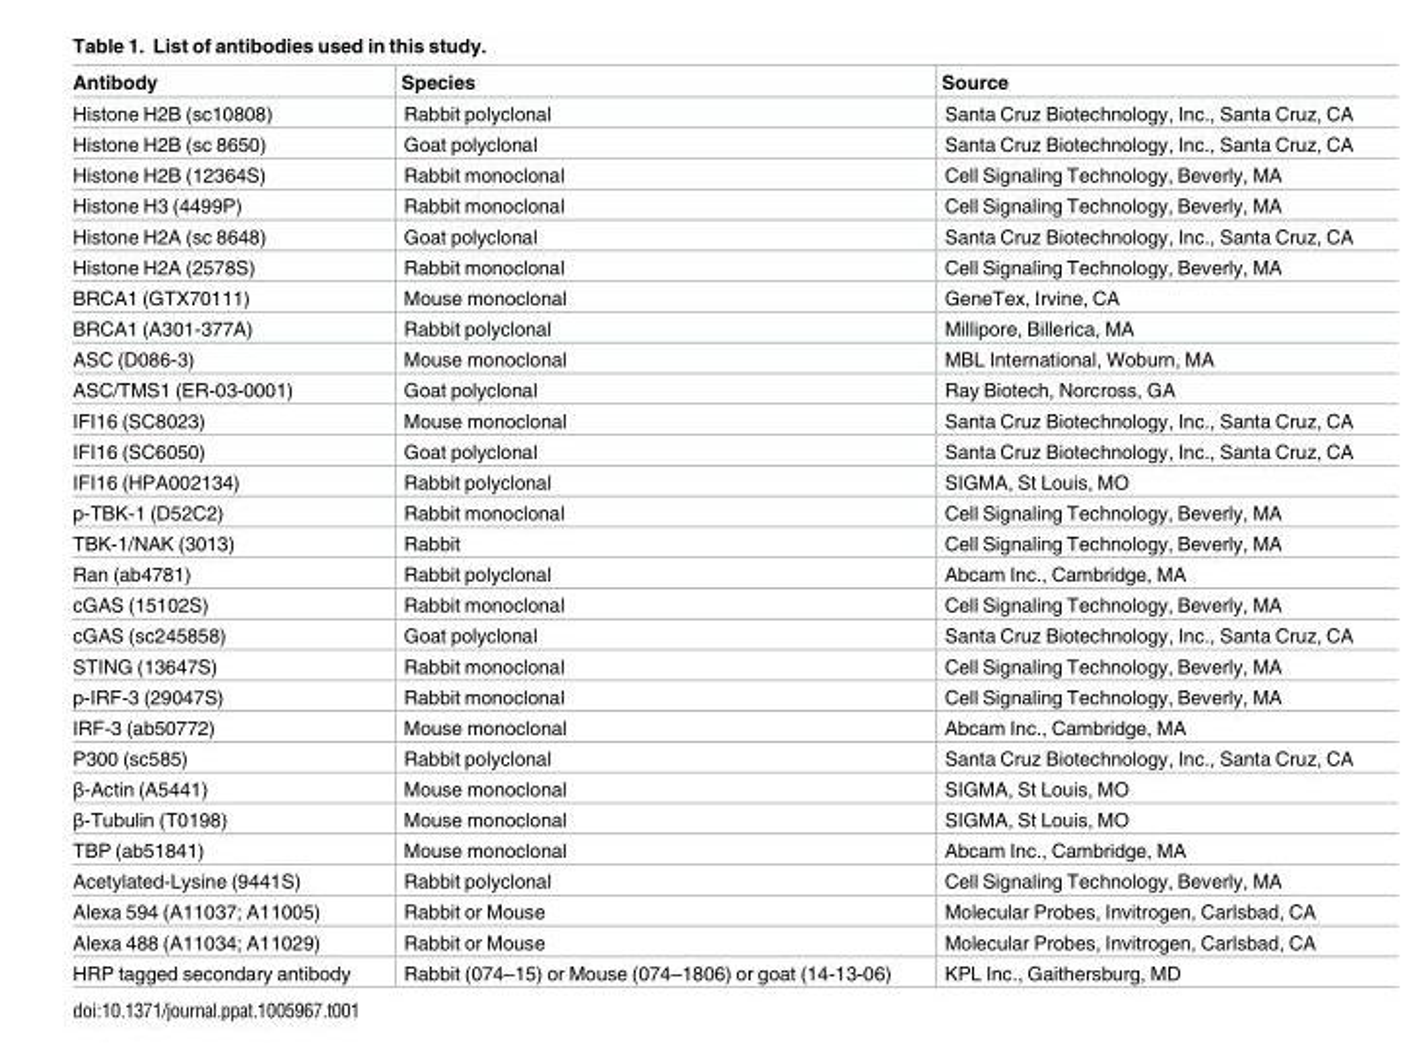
<table><thead><tr><td>Antibody</td><td>Species</td><td>Source</td></tr></thead><tbody><tr><td>Histone H2B (sc10808)</td><td>Rabbit polyclonal</td><td>Santa Cruz Biotechnology, Inc., Santa Cruz, CA</td></tr><tr><td>Histone H2B (sc 8650)</td><td>Goat polyclonal</td><td>Santa Cruz Biotechnology, Inc., Santa Cruz, CA</td></tr><tr><td>Histone H2B (12364S)</td><td>Rabbit monoclonal</td><td>Cell Signaling Technology, Beverly, MA</td></tr><tr><td>Histone H3 (4499P)</td><td>Rabbit monoclonal</td><td>Cell Signaling Technology, Beverly, MA</td></tr><tr><td>Histone H2A (sc 8648)</td><td>Goat polyclonal</td><td>Santa Cruz Biotechnology, Inc., Santa Cruz, CA</td></tr><tr><td>Histone H2A (2578S)</td><td>Rabbit monoclonal</td><td>Cell Signaling Technology, Beverly, MA</td></tr><tr><td>BRCA1 (GTX70111)</td><td>Mouse monoclonal</td><td>GeneTex, Irvine, CA</td></tr><tr><td>BRCA1 (A301-377A)</td><td>Rabbit polyclonal</td><td>Millipore, Billerica, MA</td></tr><tr><td>ASC (D086-3)</td><td>Mouse monoclonal</td><td>MBL International, Woburn, MA</td></tr><tr><td>ASC/TMS1 (ER-03-0001)</td><td>Goat polyclonal</td><td>Ray Biotech, Norcross, GA</td></tr><tr><td>IFI16 (SC8023)</td><td>Mouse monoclonal</td><td>Santa Cruz Biotechnology, Inc., Santa Cruz, CA</td></tr><tr><td>IFI16 (SC6050)</td><td>Goat polyclonal</td><td>Santa Cruz Biotechnology, Inc., Santa Cruz, CA</td></tr><tr><td>IFI16 (HPA002134)</td><td>Rabbit polyclonal</td><td>SIGMA, St Louis, MO</td></tr><tr><td>p-TBK-1 (D52C2)</td><td>Rabbit monoclonal</td><td>Cell Signaling Technology, Beverly, MA</td></tr><tr><td>TBK-1/NAK (3013)</td><td>Rabbit</td><td>Cell Signaling Technology, Beverly, MA</td></tr><tr><td>Ran (ab4781)</td><td>Rabbit polyclonal</td><td>Abcam Inc., Cambridge, MA</td></tr><tr><td>cGAS (15102S)</td><td>Rabbit monoclonal</td><td>Cell Signaling Technology, Beverly, MA</td></tr><tr><td>cGAS (sc245858)</td><td>Goat polyclonal</td><td>Santa Cruz Biotechnology, Inc., Santa Cruz, CA</td></tr><tr><td>STING (13647S)</td><td>Rabbit monoclonal</td><td>Cell Signaling Technology, Beverly, MA</td></tr><tr><td>p-IRF-3 (29047S)</td><td>Rabbit monoclonal</td><td>Cell Signaling Technology, Beverly, MA</td></tr><tr><td>IRF-3 (ab50772)</td><td>Mouse monoclonal</td><td>Abcam Inc., Cambridge, MA</td></tr><tr><td>P300 (sc585)</td><td>Rabbit polyclonal</td><td>Santa Cruz Biotechnology, Inc., Santa Cruz, CA</td></tr><tr><td>β-Actin (A5441)</td><td>Mouse monoclonal</td><td>SIGMA, St Louis, MO</td></tr><tr><td>β-Tubulin (T0198)</td><td>Mouse monoclonal</td><td>SIGMA, St Louis, MO</td></tr><tr><td>TBP (ab51841)</td><td>Mouse monoclonal</td><td>Abcam Inc., Cambridge, MA</td></tr><tr><td>Acetylated-Lysine (9441S)</td><td>Rabbit polyclonal</td><td>Cell Signaling Technology, Beverly, MA</td></tr><tr><td>Alexa 594 (A11037; A11005)</td><td>Rabbit or Mouse</td><td>Molecular Probes, Invitrogen, Carlsbad, CA</td></tr><tr><td>Alexa 488 (A11034; A11029)</td><td>Rabbit or Mouse</td><td>Molecular Probes, Invitrogen, Carlsbad, CA</td></tr><tr><td>HRP tagged secondary antibody</td><td>Rabbit (074–15) or Mouse (074–1806) or goat (14-13-06)</td><td>KPL Inc., Gaithersburg, MD</td></tr></tbody></table>